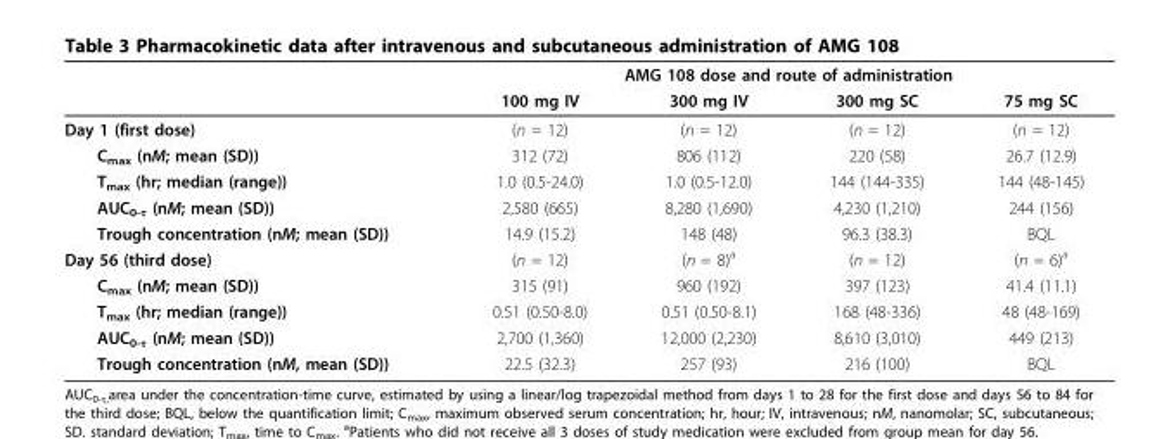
<table><thead><tr><td rowspan="2"></td><td colspan="4">AMG 108 dose and route of administration</td></tr><tr><td>100 mg IV</td><td>300 mg IV</td><td>300 mg SC</td><td>75 mg SC</td></tr></thead><tbody><tr><td>Day 1 (first dose)</td><td>(n = 12)</td><td>(n = 12)</td><td>(n = 12)</td><td>(n = 12)</td></tr><tr><td>C<sub>max</sub> (nM; mean (SD))</td><td>312 (72)</td><td>806 (112)</td><td>220 (58)</td><td>26.7 (12.9)</td></tr><tr><td>T<sub>max</sub> (hr; median (range))</td><td>1.0 (0.5-24.0)</td><td>1.0 (0.5-12.0)</td><td>144 (144-335)</td><td>144 (48-145)</td></tr><tr><td>AUC<sub>0-τ</sub> (nM; mean (SD))</td><td>2,580 (665)</td><td>8,280 (1,690)</td><td>4,230 (1,210)</td><td>244 (156)</td></tr><tr><td>Trough concentration (nM; mean (SD))</td><td>14.9 (15.2)</td><td>148 (48)</td><td>96.3 (38.3)</td><td>BQL</td></tr><tr><td>Day 56 (third dose)</td><td>(n = 12)</td><td>(n = 8)<sup>a</sup></td><td>(n = 12)</td><td>(n = 6)<sup>a</sup></td></tr><tr><td>C<sub>max</sub> (nM; mean (SD))</td><td>315 (91)</td><td>960 (192)</td><td>397 (123)</td><td>41.4 (11.1)</td></tr><tr><td>T<sub>max</sub> (hr; median (range))</td><td>0.51 (0.50-8.0)</td><td>0.51 (0.50-8.1)</td><td>168 (48-336)</td><td>48 (48-169)</td></tr><tr><td>AUC<sub>0-τ</sub> (nM; mean (SD))</td><td>2,700 (1,360)</td><td>12,000 (2,230)</td><td>8,610 (3,010)</td><td>449 (213)</td></tr><tr><td>Trough concentration (nM, mean (SD))</td><td>22.5 (32.3)</td><td>257 (93)</td><td>216 (100)</td><td>BQL</td></tr></tbody></table>